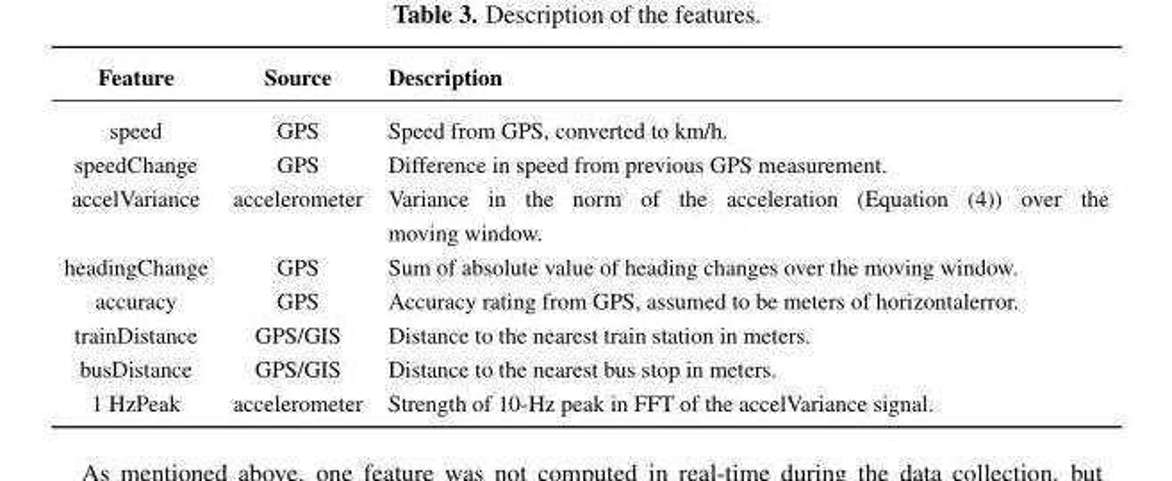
<table><thead><tr><td>Feature</td><td>Source</td><td>Description</td></tr></thead><tbody><tr><td>speed</td><td>GPS</td><td>Speed from GPS, converted to km/h.</td></tr><tr><td>speedChange</td><td>GPS</td><td>Difference in speed from previous GPS measurement.</td></tr><tr><td>accelVariance</td><td>accelerometer</td><td>Variance in the norm of the acceleration (Equation (4)) over the moving window.</td></tr><tr><td>headingChange</td><td>GPS</td><td>Sum of absolute value of heading changes over the moving window.</td></tr><tr><td>accuracy</td><td>GPS</td><td>Accuracy rating from GPS, assumed to be meters of horizontalerror.</td></tr><tr><td>trainDistance</td><td>GPS/GIS</td><td>Distance to the nearest train station in meters.</td></tr><tr><td>busDistance</td><td>GPS/GIS</td><td>Distance to the nearest bus stop in meters.</td></tr><tr><td>1 HzPeak</td><td>accelerometer</td><td>Strength of 10-Hz peak in FFT of the accelVariance signal.</td></tr></tbody></table>